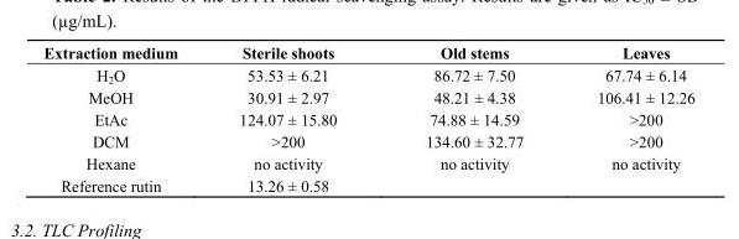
<table><thead><tr><td>Extraction medium</td><td>Sterile shoots</td><td>Old stems</td><td>Leaves</td></tr></thead><tbody><tr><td>H<sub>2</sub>O</td><td>53.53 ± 6.21</td><td>86.72 ± 7.50</td><td>67.74 ± 6.14</td></tr><tr><td>MeOH</td><td>30.91 ± 2.97</td><td>48.21 ± 4.38</td><td>106.41 ± 12.26</td></tr><tr><td>EtAc</td><td>124.07 ± 15.80</td><td>74.88 ± 14.59</td><td>&gt;200</td></tr><tr><td>DCM</td><td>&gt;200</td><td>134.60 ± 32.77</td><td>&gt;200</td></tr><tr><td>Hexane</td><td>no activity</td><td>no activity</td><td>no activity</td></tr><tr><td>Reference rutin</td><td>13.26 ± 0.58</td><td></td><td></td></tr></tbody></table>